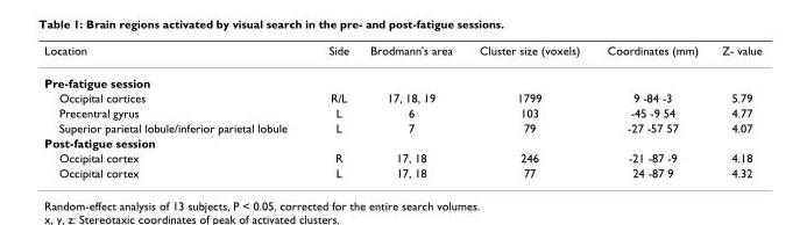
<table><thead><tr><td>Location</td><td>Side</td><td>Brodmann&#x27;s area</td><td>Cluster size (voxels)</td><td>Coordinates (mm)</td><td>Z- value</td></tr></thead><tbody><tr><td colspan="6">Pre-fatigue session</td></tr><tr><td>Occipital cortices</td><td>R/L</td><td>17, 18, 19</td><td>1799</td><td>9 -84 -3</td><td>5.79</td></tr><tr><td>Precentral gyrus</td><td>L</td><td>6</td><td>103</td><td>-45 -9 54</td><td>4.77</td></tr><tr><td>Superior parietal lobule/inferior parietal lobule</td><td>L</td><td>7</td><td>79</td><td>-27 -57 57</td><td>4.07</td></tr><tr><td colspan="6">Post-fatigue session</td></tr><tr><td>Occipital cortex</td><td>R</td><td>17, 18</td><td>246</td><td>-21 -87 -9</td><td>4.18</td></tr><tr><td>Occipital cortex</td><td>L</td><td>17, 18</td><td>77</td><td>24 -87 9</td><td>4.32</td></tr></tbody></table>